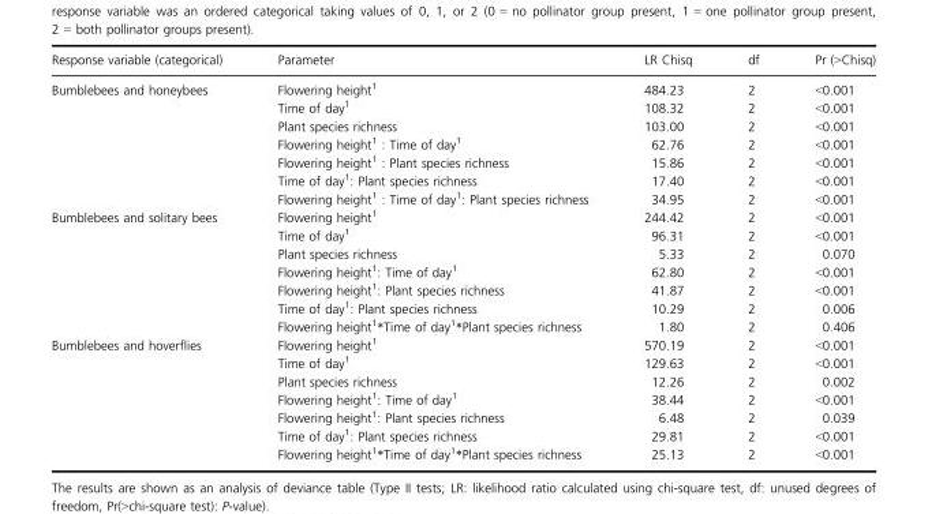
<table><thead><tr><td>Response variable (categorical)</td><td>Parameter</td><td>LR Chisq</td><td>df</td><td>Pr (&gt;Chisq)</td></tr></thead><tbody><tr><td rowspan="7">Bumblebees and honeybees</td><td>Flowering height1</td><td>484.23</td><td>2</td><td>&lt;0.001</td></tr><tr><td>Time of day1</td><td>108.32</td><td>2</td><td>&lt;0.001</td></tr><tr><td>Plant species richness</td><td>103.00</td><td>2</td><td>&lt;0.001</td></tr><tr><td>Flowering height1 : Time of day1</td><td>62.76</td><td>2</td><td>&lt;0.001</td></tr><tr><td>Flowering height1 : Plant species richness</td><td>15.86</td><td>2</td><td>&lt;0.001</td></tr><tr><td>Time of day1: Plant species richness</td><td>17.40</td><td>2</td><td>&lt;0.001</td></tr><tr><td>Flowering height1 : Time of day1: Plant species richness</td><td>34.95</td><td>2</td><td>&lt;0.001</td></tr><tr><td rowspan="7">Bumblebees and solitary bees</td><td>Flowering height1</td><td>244.42</td><td>2</td><td>&lt;0.001</td></tr><tr><td>Time of day1</td><td>96.31</td><td>2</td><td>&lt;0.001</td></tr><tr><td>Plant species richness</td><td>5.33</td><td>2</td><td>0.070</td></tr><tr><td>Flowering height1: Time of day1</td><td>62.80</td><td>2</td><td>&lt;0.001</td></tr><tr><td>Flowering height1: Plant species richness</td><td>41.87</td><td>2</td><td>&lt;0.001</td></tr><tr><td>Time of day1: Plant species richness</td><td>10.29</td><td>2</td><td>0.006</td></tr><tr><td>Flowering height1*Time of day1*Plant species richness</td><td>1.80</td><td>2</td><td>0.406</td></tr><tr><td rowspan="7">Bumblebees and hoverflies</td><td>Flowering height1</td><td>570.19</td><td>2</td><td>&lt;0.001</td></tr><tr><td>Time of day1</td><td>129.63</td><td>2</td><td>&lt;0.001</td></tr><tr><td>Plant species richness</td><td>12.26</td><td>2</td><td>0.002</td></tr><tr><td>Flowering height1: Time of day1</td><td>38.44</td><td>2</td><td>&lt;0.001</td></tr><tr><td>Flowering height1: Plant species richness</td><td>6.48</td><td>2</td><td>0.039</td></tr><tr><td>Time of day1: Plant species richness</td><td>29.81</td><td>2</td><td>&lt;0.001</td></tr><tr><td>Flowering height1*Time of day1*Plant species richness</td><td>25.13</td><td>2</td><td>&lt;0.001</td></tr></tbody></table>